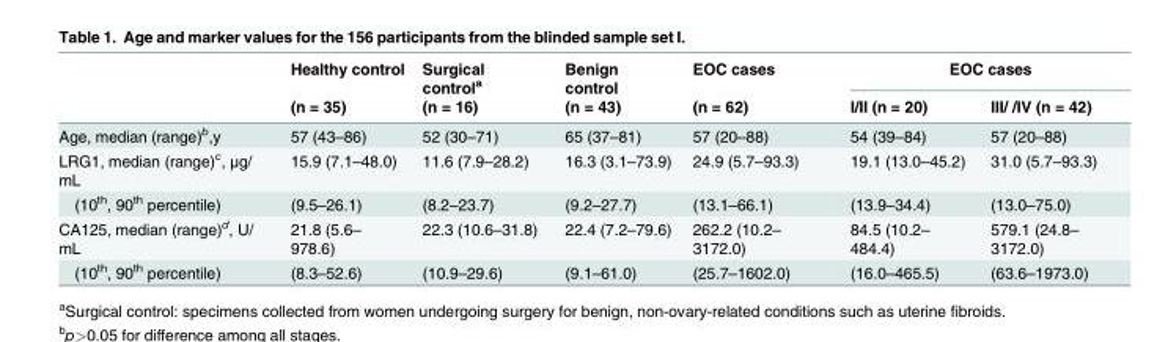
<table><thead><tr><td rowspan="2"></td><td rowspan="2">Healthy control (n = 35)</td><td rowspan="2">Surgical control<sup>a</sup> (n = 16)</td><td rowspan="2">Benign control (n = 43)</td><td rowspan="2">EOC cases (n = 62)</td><td colspan="2">EOC cases</td></tr><tr><td>I/II (n = 20)</td><td>III/ /IV (n = 42)</td></tr></thead><tbody><tr><td>Age, median (range)<sup>b</sup>,y</td><td>57 (43–86)</td><td>52 (30–71)</td><td>65 (37–81)</td><td>57 (20–88)</td><td>54 (39–84)</td><td>57 (20–88)</td></tr><tr><td>LRG1, median (range)<sup>c</sup>, μg/ mL</td><td>15.9 (7.1–48.0)</td><td>11.6 (7.9–28.2)</td><td>16.3 (3.1–73.9)</td><td>24.9 (5.7–93.3)</td><td>19.1 (13.0–45.2)</td><td>31.0 (5.7–93.3)</td></tr><tr><td>(10<sup>th</sup>, 90<sup>th</sup> percentile)</td><td>(9.5–26.1)</td><td>(8.2–23.7)</td><td>(9.2–27.7)</td><td>(13.1–66.1)</td><td>(13.9–34.4)</td><td>(13.0–75.0)</td></tr><tr><td>CA125, median (range)<sup>d</sup>, U/ mL</td><td>21.8 (5.6– 978.6)</td><td>22.3 (10.6–31.8)</td><td>22.4 (7.2–79.6)</td><td>262.2 (10.2– 3172.0)</td><td>84.5 (10.2– 484.4)</td><td>579.1 (24.8– 3172.0)</td></tr><tr><td>(10<sup>th</sup>, 90<sup>th</sup> percentile)</td><td>(8.3–52.6)</td><td>(10.9–29.6)</td><td>(9.1–61.0)</td><td>(25.7–1602.0)</td><td>(16.0–465.5)</td><td>(63.6–1973.0)</td></tr></tbody></table>